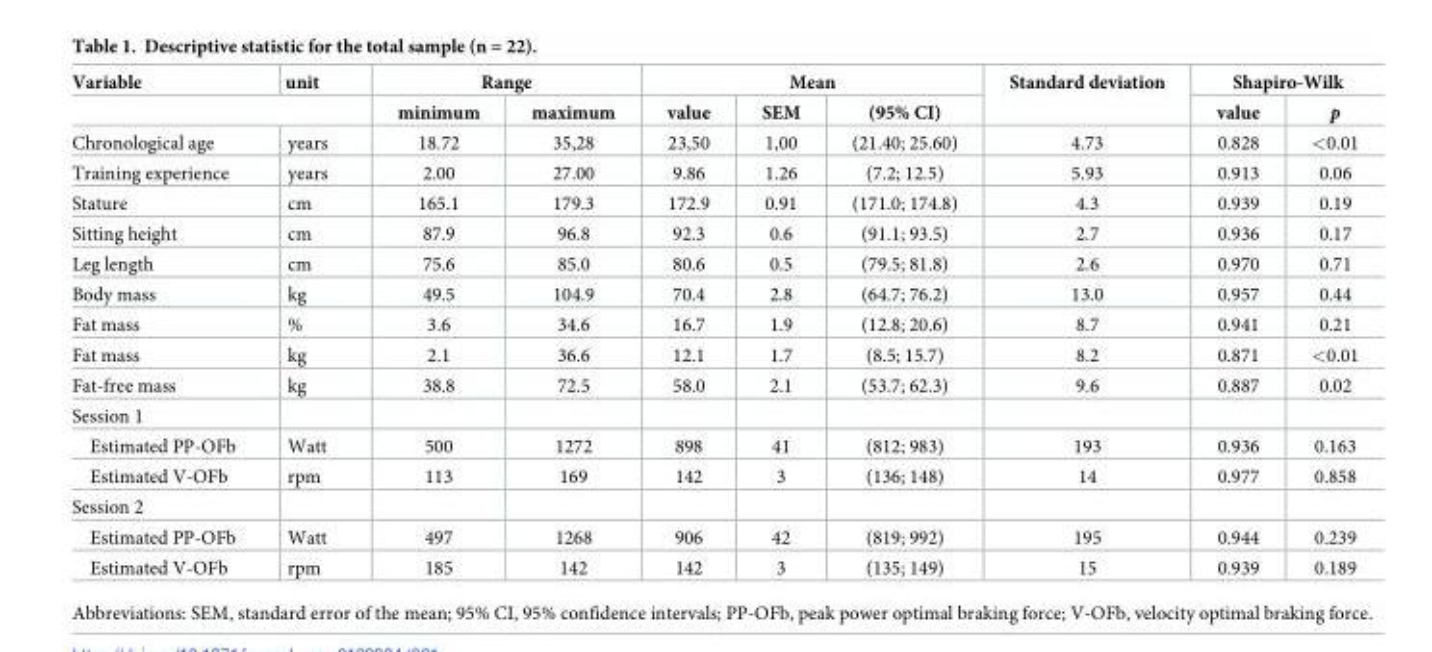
<table><thead><tr><td rowspan="2">Variable</td><td rowspan="2">unit</td><td colspan="2">Range</td><td colspan="3">Mean</td><td rowspan="2">Standard deviation</td><td colspan="2">Shapiro-Wilk</td></tr><tr><td>minimum</td><td>maximum</td><td>value</td><td>SEM</td><td>(95% CI)</td><td>value</td><td>p</td></tr></thead><tbody><tr><td>Chronological age</td><td>years</td><td>18.72</td><td>35,28</td><td>23,50</td><td>1,00</td><td>(21.40; 25.60)</td><td>4.73</td><td>0.828</td><td>&lt;0.01</td></tr><tr><td>Training experience</td><td>years</td><td>2.00</td><td>27.00</td><td>9.86</td><td>1.26</td><td>(7.2; 12.5)</td><td>5.93</td><td>0.913</td><td>0.06</td></tr><tr><td>Stature</td><td>cm</td><td>165.1</td><td>179.3</td><td>172.9</td><td>0.91</td><td>(171.0; 174.8)</td><td>4.3</td><td>0.939</td><td>0.19</td></tr><tr><td>Sitting height</td><td>cm</td><td>87.9</td><td>96.8</td><td>92.3</td><td>0.6</td><td>(91.1; 93.5)</td><td>2.7</td><td>0.936</td><td>0.17</td></tr><tr><td>Leg length</td><td>cm</td><td>75.6</td><td>85.0</td><td>80.6</td><td>0.5</td><td>(79.5; 81.8)</td><td>2.6</td><td>0.970</td><td>0.71</td></tr><tr><td>Body mass</td><td>kg</td><td>49.5</td><td>104.9</td><td>70.4</td><td>2.8</td><td>(64.7; 76.2)</td><td>13.0</td><td>0.957</td><td>0.44</td></tr><tr><td>Fat mass</td><td>%</td><td>3.6</td><td>34.6</td><td>16.7</td><td>1.9</td><td>(12.8; 20.6)</td><td>8.7</td><td>0.941</td><td>0.21</td></tr><tr><td>Fat mass</td><td>kg</td><td>2.1</td><td>36.6</td><td>12.1</td><td>1.7</td><td>(8.5; 15.7)</td><td>8.2</td><td>0.871</td><td>&lt;0.01</td></tr><tr><td>Fat-free mass</td><td>kg</td><td>38.8</td><td>72.5</td><td>58.0</td><td>2.1</td><td>(53.7; 62.3)</td><td>9.6</td><td>0.887</td><td>0.02</td></tr><tr><td colspan="10">Session 1</td></tr><tr><td>Estimated PP-OFb</td><td>Watt</td><td>500</td><td>1272</td><td>898</td><td>41</td><td>(812; 983)</td><td>193</td><td>0.936</td><td>0.163</td></tr><tr><td>Estimated V-OFb</td><td>rpm</td><td>113</td><td>169</td><td>142</td><td>3</td><td>(136; 148)</td><td>14</td><td>0.977</td><td>0.858</td></tr><tr><td colspan="10">Session 2</td></tr><tr><td>Estimated PP-OFb</td><td>Watt</td><td>497</td><td>1268</td><td>906</td><td>42</td><td>(819; 992)</td><td>195</td><td>0.944</td><td>0.239</td></tr><tr><td>Estimated V-OFb</td><td>rpm</td><td>185</td><td>142</td><td>142</td><td>3</td><td>(135; 149)</td><td>15</td><td>0.939</td><td>0.189</td></tr></tbody></table>